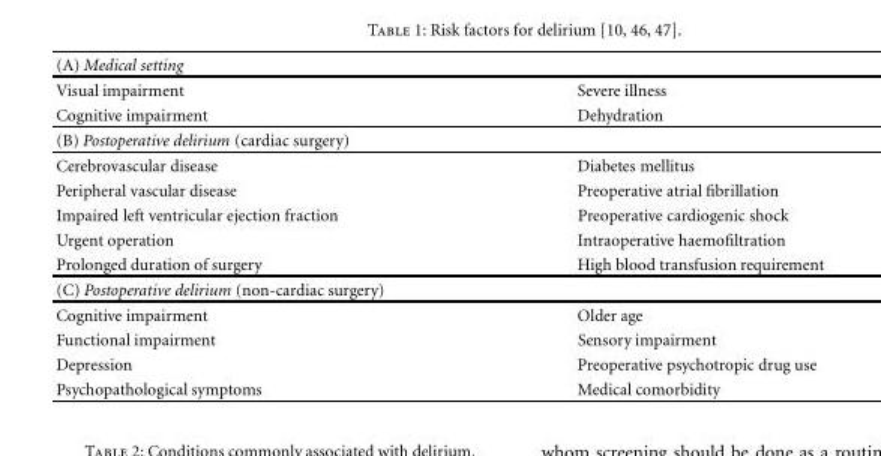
<table><thead><tr><td>(A) Medical setting</td><td></td></tr></thead><tbody><tr><td>Visual impairment</td><td>Severe illness</td></tr><tr><td>Cognitive impairment</td><td>Dehydration</td></tr><tr><td colspan="2">(B) Postoperative delirium (cardiac surgery)</td></tr><tr><td>Cerebrovascular disease</td><td>Diabetes mellitus</td></tr><tr><td>Peripheral vascular disease</td><td>Preoperative atrial fibrillation</td></tr><tr><td>Impaired left ventricular ejection fraction</td><td>Preoperative cardiogenic shock</td></tr><tr><td>Urgent operation</td><td>Intraoperative haemofiltration</td></tr><tr><td>Prolonged duration of surgery</td><td>High blood transfusion requirement</td></tr><tr><td colspan="2">(C) Postoperative delirium (non-cardiac surgery)</td></tr><tr><td>Cognitive impairment</td><td>Older age</td></tr><tr><td>Functional impairment</td><td>Sensory impairment</td></tr><tr><td>Depression</td><td>Preoperative psychotropic drug use</td></tr><tr><td>Psychopathological symptoms</td><td>Medical comorbidity</td></tr></tbody></table>